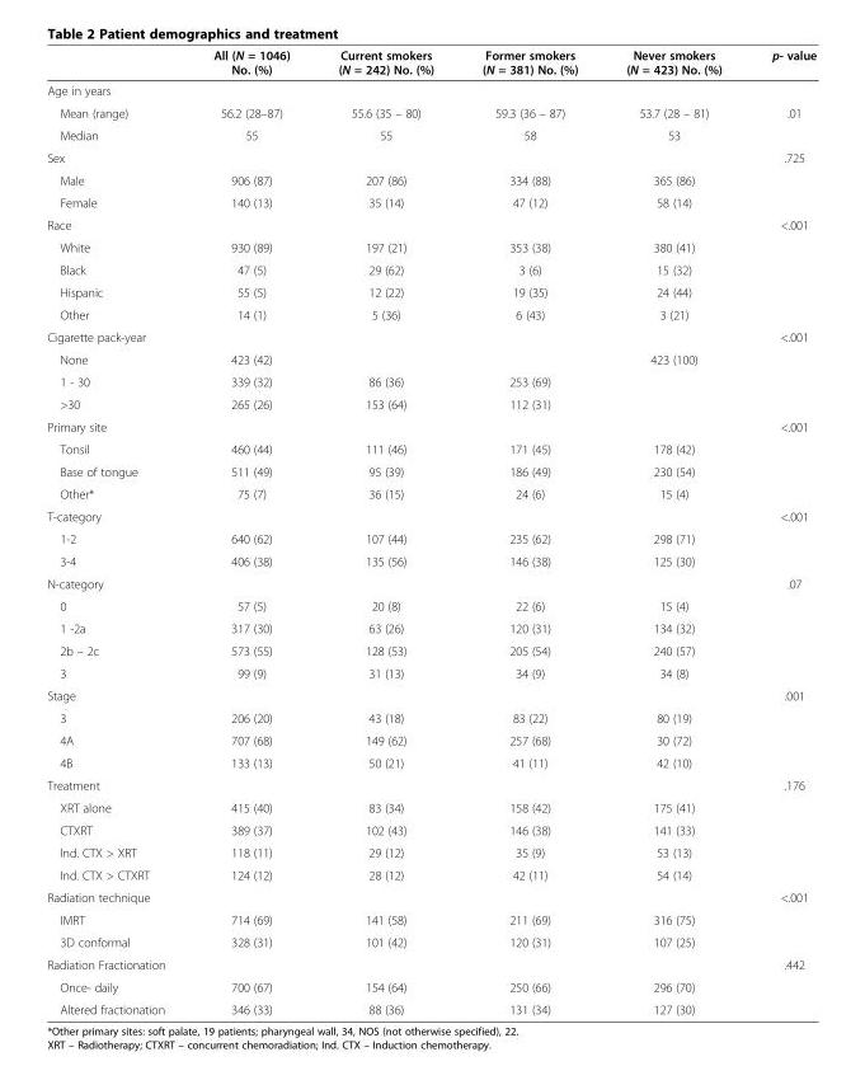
<table><thead><tr><td></td><td>All (N = 1046) No. (%)</td><td>Current smokers (N = 242) No. (%)</td><td>Former smokers (N = 381) No. (%)</td><td>Never smokers (N = 423) No. (%)</td><td>p- value</td></tr></thead><tbody><tr><td colspan="6">Age in years</td></tr><tr><td>Mean (range)</td><td>56.2 (28–87)</td><td>55.6 (35 – 80)</td><td>59.3 (36 – 87)</td><td>53.7 (28 – 81)</td><td>.01</td></tr><tr><td>Median</td><td>55</td><td>55</td><td>58</td><td>53</td><td></td></tr><tr><td>Sex</td><td></td><td></td><td></td><td></td><td>.725</td></tr><tr><td>Male</td><td>906 (87)</td><td>207 (86)</td><td>334 (88)</td><td>365 (86)</td><td></td></tr><tr><td>Female</td><td>140 (13)</td><td>35 (14)</td><td>47 (12)</td><td>58 (14)</td><td></td></tr><tr><td>Race</td><td></td><td></td><td></td><td></td><td>&lt;.001</td></tr><tr><td>White</td><td>930 (89)</td><td>197 (21)</td><td>353 (38)</td><td>380 (41)</td><td></td></tr><tr><td>Black</td><td>47 (5)</td><td>29 (62)</td><td>3 (6)</td><td>15 (32)</td><td></td></tr><tr><td>Hispanic</td><td>55 (5)</td><td>12 (22)</td><td>19 (35)</td><td>24 (44)</td><td></td></tr><tr><td>Other</td><td>14 (1)</td><td>5 (36)</td><td>6 (43)</td><td>3 (21)</td><td></td></tr><tr><td>Cigarette pack-year</td><td></td><td></td><td></td><td></td><td>&lt;.001</td></tr><tr><td>None</td><td>423 (42)</td><td></td><td></td><td>423 (100)</td><td></td></tr><tr><td>1 - 30</td><td>339 (32)</td><td>86 (36)</td><td>253 (69)</td><td></td><td></td></tr><tr><td>&gt;30</td><td>265 (26)</td><td>153 (64)</td><td>112 (31)</td><td></td><td></td></tr><tr><td>Primary site</td><td></td><td></td><td></td><td></td><td>&lt;.001</td></tr><tr><td>Tonsil</td><td>460 (44)</td><td>111 (46)</td><td>171 (45)</td><td>178 (42)</td><td></td></tr><tr><td>Base of tongue</td><td>511 (49)</td><td>95 (39)</td><td>186 (49)</td><td>230 (54)</td><td></td></tr><tr><td>Other*</td><td>75 (7)</td><td>36 (15)</td><td>24 (6)</td><td>15 (4)</td><td></td></tr><tr><td>T-category</td><td></td><td></td><td></td><td></td><td>&lt;.001</td></tr><tr><td>1-2</td><td>640 (62)</td><td>107 (44)</td><td>235 (62)</td><td>298 (71)</td><td></td></tr><tr><td>3-4</td><td>406 (38)</td><td>135 (56)</td><td>146 (38)</td><td>125 (30)</td><td></td></tr><tr><td>N-category</td><td></td><td></td><td></td><td></td><td>.07</td></tr><tr><td>0</td><td>57 (5)</td><td>20 (8)</td><td>22 (6)</td><td>15 (4)</td><td></td></tr><tr><td>1 -2a</td><td>317 (30)</td><td>63 (26)</td><td>120 (31)</td><td>134 (32)</td><td></td></tr><tr><td>2b – 2c</td><td>573 (55)</td><td>128 (53)</td><td>205 (54)</td><td>240 (57)</td><td></td></tr><tr><td>3</td><td>99 (9)</td><td>31 (13)</td><td>34 (9)</td><td>34 (8)</td><td></td></tr><tr><td>Stage</td><td></td><td></td><td></td><td></td><td>.001</td></tr><tr><td>3</td><td>206 (20)</td><td>43 (18)</td><td>83 (22)</td><td>80 (19)</td><td></td></tr><tr><td>4A</td><td>707 (68)</td><td>149 (62)</td><td>257 (68)</td><td>30 (72)</td><td></td></tr><tr><td>4B</td><td>133 (13)</td><td>50 (21)</td><td>41 (11)</td><td>42 (10)</td><td></td></tr><tr><td>Treatment</td><td></td><td></td><td></td><td></td><td>.176</td></tr><tr><td>XRT alone</td><td>415 (40)</td><td>83 (34)</td><td>158 (42)</td><td>175 (41)</td><td></td></tr><tr><td>CTXRT</td><td>389 (37)</td><td>102 (43)</td><td>146 (38)</td><td>141 (33)</td><td></td></tr><tr><td>Ind. CTX &gt; XRT</td><td>118 (11)</td><td>29 (12)</td><td>35 (9)</td><td>53 (13)</td><td></td></tr><tr><td>Ind. CTX &gt; CTXRT</td><td>124 (12)</td><td>28 (12)</td><td>42 (11)</td><td>54 (14)</td><td></td></tr><tr><td>Radiation technique</td><td></td><td></td><td></td><td></td><td>&lt;.001</td></tr><tr><td>IMRT</td><td>714 (69)</td><td>141 (58)</td><td>211 (69)</td><td>316 (75)</td><td></td></tr><tr><td>3D conformal</td><td>328 (31)</td><td>101 (42)</td><td>120 (31)</td><td>107 (25)</td><td></td></tr><tr><td>Radiation Fractionation</td><td></td><td></td><td></td><td></td><td>.442</td></tr><tr><td>Once- daily</td><td>700 (67)</td><td>154 (64)</td><td>250 (66)</td><td>296 (70)</td><td></td></tr><tr><td>Altered fractionation</td><td>346 (33)</td><td>88 (36)</td><td>131 (34)</td><td>127 (30)</td><td></td></tr></tbody></table>